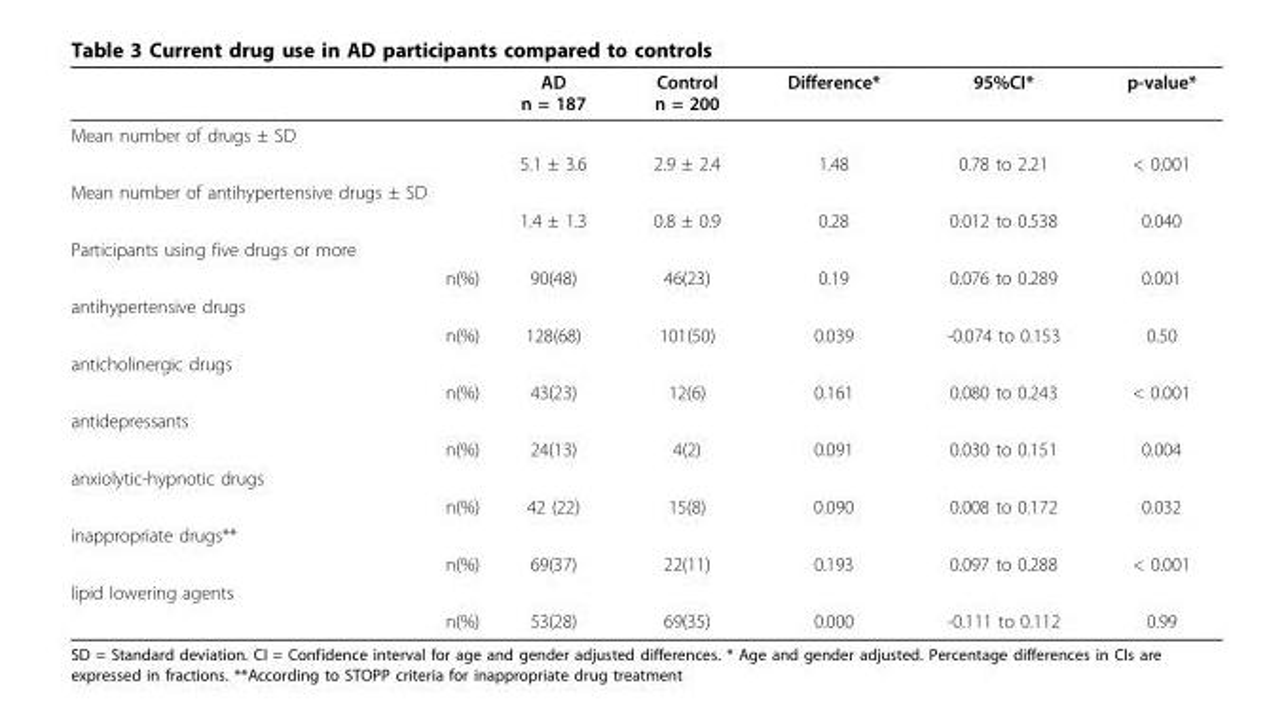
<table><thead><tr><td></td><td>AD n = 187</td><td>Control n = 200</td><td>Difference*</td><td>95%CI*</td><td>p-value*</td></tr></thead><tbody><tr><td colspan="6">Mean number of drugs ± SD</td></tr><tr><td></td><td>5.1 ± 3.6</td><td>2.9 ± 2.4</td><td>1.48</td><td>0.78 to 2.21</td><td>&lt; 0.001</td></tr><tr><td colspan="6">Mean number of antihypertensive drugs ± SD</td></tr><tr><td></td><td>1.4 ± 1.3</td><td>0.8 ± 0.9</td><td>0.28</td><td>0.012 to 0.538</td><td>0.040</td></tr><tr><td colspan="6">Participants using five drugs or more</td></tr><tr><td>n(%)</td><td>90(48)</td><td>46(23)</td><td>0.19</td><td>0.076 to 0.289</td><td>0.001</td></tr><tr><td colspan="6">antihypertensive drugs</td></tr><tr><td>n(%)</td><td>128(68)</td><td>101(50)</td><td>0.039</td><td>-0.074 to 0.153</td><td>0.50</td></tr><tr><td colspan="6">anticholinergic drugs</td></tr><tr><td>n(%)</td><td>43(23)</td><td>12(6)</td><td>0.161</td><td>0.080 to 0.243</td><td>&lt; 0.001</td></tr><tr><td colspan="6">antidepressants</td></tr><tr><td>n(%)</td><td>24(13)</td><td>4(2)</td><td>0.091</td><td>0.030 to 0.151</td><td>0.004</td></tr><tr><td colspan="6">anxiolytic-hypnotic drugs</td></tr><tr><td>n(%)</td><td>42 (22)</td><td>15(8)</td><td>0.090</td><td>0.008 to 0.172</td><td>0.032</td></tr><tr><td colspan="6">inappropriate drugs**</td></tr><tr><td>n(%)</td><td>69(37)</td><td>22(11)</td><td>0.193</td><td>0.097 to 0.288</td><td>&lt; 0.001</td></tr><tr><td colspan="6">lipid lowering agents</td></tr><tr><td>n(%)</td><td>53(28)</td><td>69(35)</td><td>0.000</td><td>-0.111 to 0.112</td><td>0.99</td></tr></tbody></table>